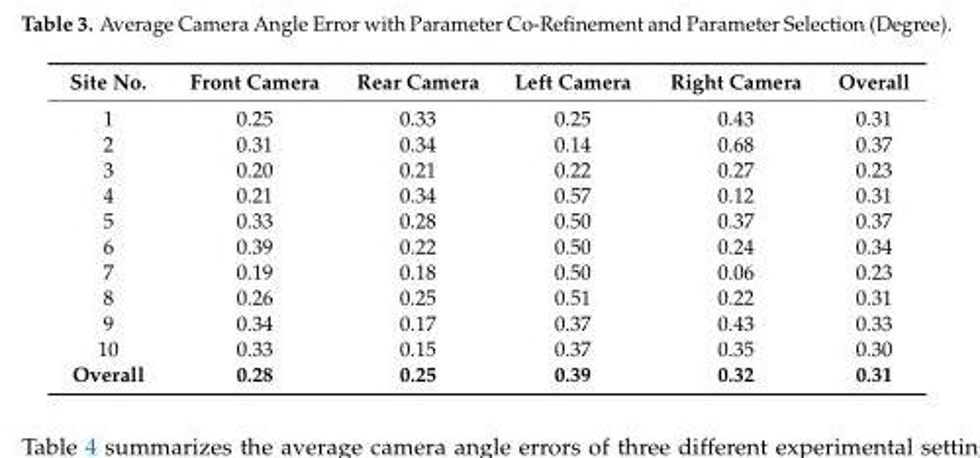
<table><thead><tr><td>Site No.</td><td>Front Camera</td><td>Rear Camera</td><td>Left Camera</td><td>Right Camera</td><td>Overall</td></tr></thead><tbody><tr><td>1</td><td>0.25</td><td>0.33</td><td>0.25</td><td>0.43</td><td>0.31</td></tr><tr><td>2</td><td>0.31</td><td>0.34</td><td>0.14</td><td>0.68</td><td>0.37</td></tr><tr><td>3</td><td>0.20</td><td>0.21</td><td>0.22</td><td>0.27</td><td>0.23</td></tr><tr><td>4</td><td>0.21</td><td>0.34</td><td>0.57</td><td>0.12</td><td>0.31</td></tr><tr><td>5</td><td>0.33</td><td>0.28</td><td>0.50</td><td>0.37</td><td>0.37</td></tr><tr><td>6</td><td>0.39</td><td>0.22</td><td>0.50</td><td>0.24</td><td>0.34</td></tr><tr><td>7</td><td>0.19</td><td>0.18</td><td>0.50</td><td>0.06</td><td>0.23</td></tr><tr><td>8</td><td>0.26</td><td>0.25</td><td>0.51</td><td>0.22</td><td>0.31</td></tr><tr><td>9</td><td>0.34</td><td>0.17</td><td>0.37</td><td>0.43</td><td>0.33</td></tr><tr><td>10</td><td>0.33</td><td>0.15</td><td>0.37</td><td>0.35</td><td>0.30</td></tr><tr><td>Overall</td><td>0.28</td><td>0.25</td><td>0.39</td><td>0.32</td><td>0.31</td></tr></tbody></table>